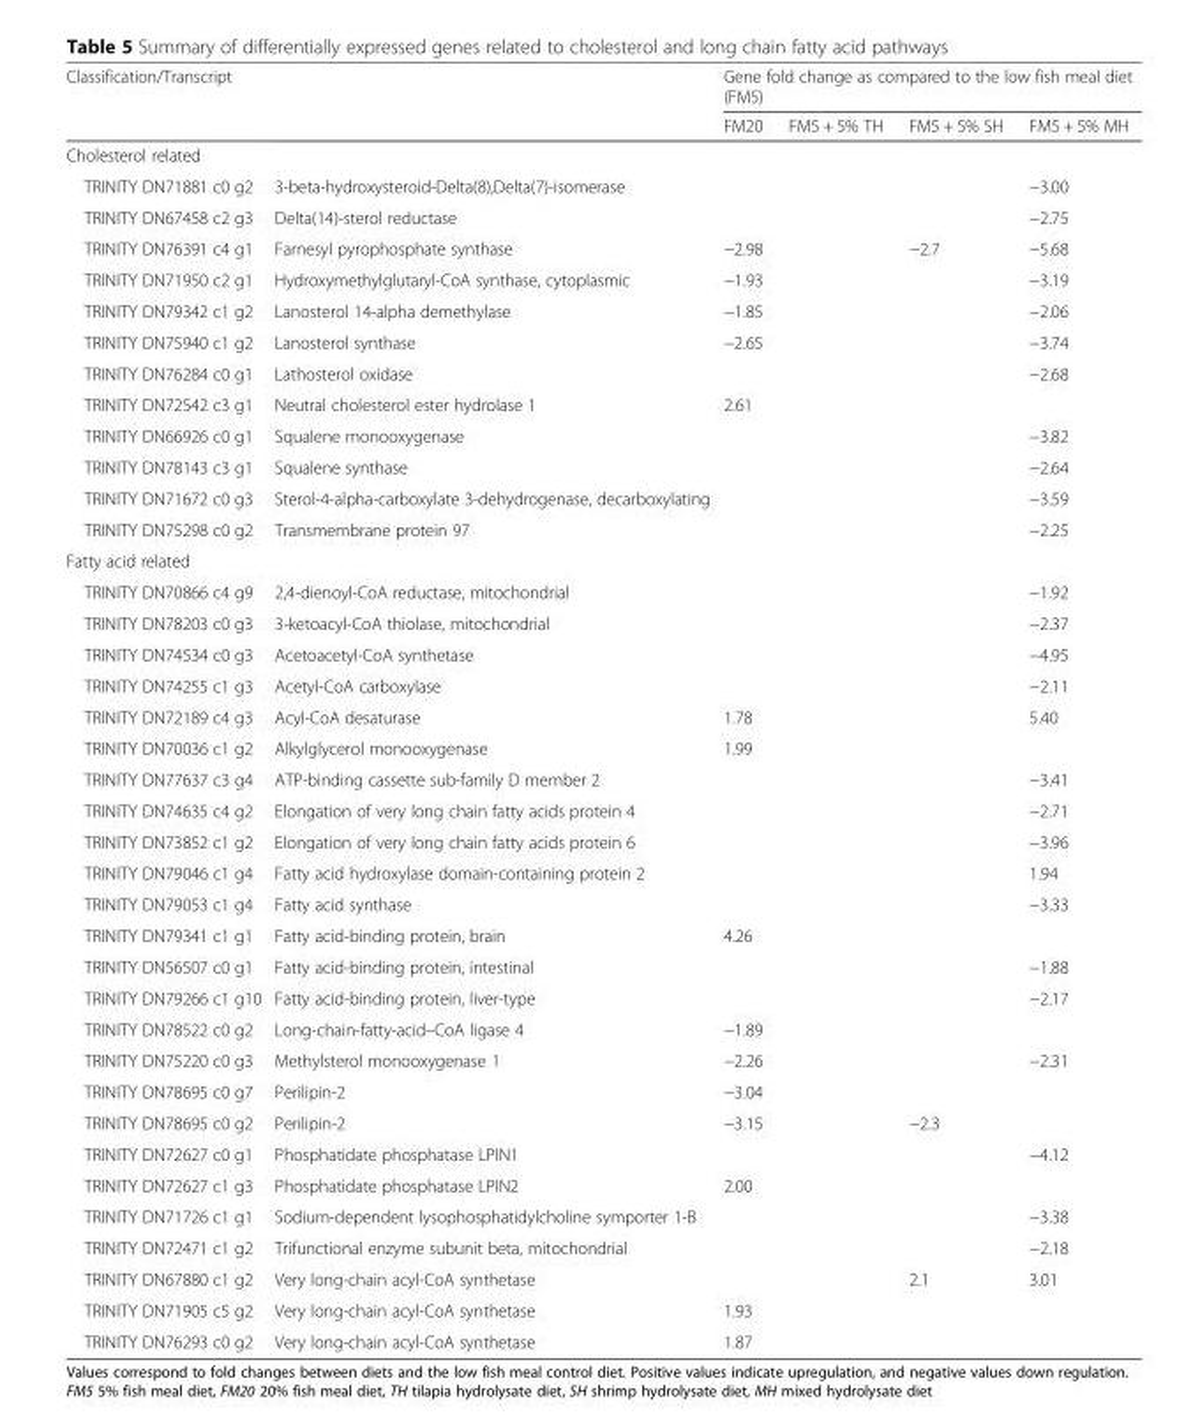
<table><thead><tr><td rowspan="2">Classification/Transcript</td><td rowspan="2"></td><td colspan="4">Gene fold change as compared to the low fish meal diet (FM5)</td></tr><tr><td>FM20</td><td>FM5 + 5% TH</td><td>FM5 + 5% SH</td><td>FM5 + 5% MH</td></tr></thead><tbody><tr><td colspan="6">Cholesterol related</td></tr><tr><td>TRINITY DN71881 c0 g2</td><td>3-beta-hydroxysteroid-Delta(8),Delta(7)-isomerase</td><td></td><td></td><td></td><td>−3.00</td></tr><tr><td>TRINITY DN67458 c2 g3</td><td>Delta(14)-sterol reductase</td><td></td><td></td><td></td><td>−2.75</td></tr><tr><td>TRINITY DN76391 c4 g1</td><td>Farnesyl pyrophosphate synthase</td><td>−2.98</td><td></td><td>−2.7</td><td>−5.68</td></tr><tr><td>TRINITY DN71950 c2 g1</td><td>Hydroxymethylglutaryl-CoA synthase, cytoplasmic</td><td>−1.93</td><td></td><td></td><td>−3.19</td></tr><tr><td>TRINITY DN79342 c1 g2</td><td>Lanosterol 14-alpha demethylase</td><td>−1.85</td><td></td><td></td><td>−2.06</td></tr><tr><td>TRINITY DN75940 c1 g2</td><td>Lanosterol synthase</td><td>−2.65</td><td></td><td></td><td>−3.74</td></tr><tr><td>TRINITY DN76284 c0 g1</td><td>Lathosterol oxidase</td><td></td><td></td><td></td><td>−2.68</td></tr><tr><td>TRINITY DN72542 c3 g1</td><td>Neutral cholesterol ester hydrolase 1</td><td>2.61</td><td></td><td></td><td></td></tr><tr><td>TRINITY DN66926 c0 g1</td><td>Squalene monooxygenase</td><td></td><td></td><td></td><td>−3.82</td></tr><tr><td>TRINITY DN78143 c3 g1</td><td>Squalene synthase</td><td></td><td></td><td></td><td>−2.64</td></tr><tr><td>TRINITY DN71672 c0 g3</td><td>Sterol-4-alpha-carboxylate 3-dehydrogenase, decarboxylating</td><td></td><td></td><td></td><td>−3.59</td></tr><tr><td>TRINITY DN75298 c0 g2</td><td>Transmembrane protein 97</td><td></td><td></td><td></td><td>−2.25</td></tr><tr><td colspan="6">Fatty acid related</td></tr><tr><td>TRINITY DN70866 c4 g9</td><td>2,4-dienoyl-CoA reductase, mitochondrial</td><td></td><td></td><td></td><td>−1.92</td></tr><tr><td>TRINITY DN78203 c0 g3</td><td>3-ketoacyl-CoA thiolase, mitochondrial</td><td></td><td></td><td></td><td>−2.37</td></tr><tr><td>TRINITY DN74534 c0 g3</td><td>Acetoacetyl-CoA synthetase</td><td></td><td></td><td></td><td>−4.95</td></tr><tr><td>TRINITY DN74255 c1 g3</td><td>Acetyl-CoA carboxylase</td><td></td><td></td><td></td><td>−2.11</td></tr><tr><td>TRINITY DN72189 c4 g3</td><td>Acyl-CoA desaturase</td><td>1.78</td><td></td><td></td><td>5.40</td></tr><tr><td>TRINITY DN70036 c1 g2</td><td>Alkylglycerol monooxygenase</td><td>1.99</td><td></td><td></td><td></td></tr><tr><td>TRINITY DN77637 c3 g4</td><td>ATP-binding cassette sub-family D member 2</td><td></td><td></td><td></td><td>−3.41</td></tr><tr><td>TRINITY DN74635 c4 g2</td><td>Elongation of very long chain fatty acids protein 4</td><td></td><td></td><td></td><td>−2.71</td></tr><tr><td>TRINITY DN73852 c1 g2</td><td>Elongation of very long chain fatty acids protein 6</td><td></td><td></td><td></td><td>−3.96</td></tr><tr><td>TRINITY DN79046 c1 g4</td><td>Fatty acid hydroxylase domain-containing protein 2</td><td></td><td></td><td></td><td>1.94</td></tr><tr><td>TRINITY DN79053 c1 g4</td><td>Fatty acid synthase</td><td></td><td></td><td></td><td>−3.33</td></tr><tr><td>TRINITY DN79341 c1 g1</td><td>Fatty acid-binding protein, brain</td><td>4.26</td><td></td><td></td><td></td></tr><tr><td>TRINITY DN56507 c0 g1</td><td>Fatty acid-binding protein, intestinal</td><td></td><td></td><td></td><td>−1.88</td></tr><tr><td>TRINITY DN79266 c1 g10</td><td>Fatty acid-binding protein, liver-type</td><td></td><td></td><td></td><td>−2.17</td></tr><tr><td>TRINITY DN78522 c0 g2</td><td>Long-chain-fatty-acid–CoA ligase 4</td><td>−1.89</td><td></td><td></td><td></td></tr><tr><td>TRINITY DN75220 c0 g3</td><td>Methylsterol monooxygenase 1</td><td>−2.26</td><td></td><td></td><td>−2.31</td></tr><tr><td>TRINITY DN78695 c0 g7</td><td>Perilipin-2</td><td>−3.04</td><td></td><td></td><td></td></tr><tr><td>TRINITY DN78695 c0 g2</td><td>Perilipin-2</td><td>−3.15</td><td></td><td>−2.3</td><td></td></tr><tr><td>TRINITY DN72627 c0 g1</td><td>Phosphatidate phosphatase LPIN1</td><td></td><td></td><td></td><td>−4.12</td></tr><tr><td>TRINITY DN72627 c1 g3</td><td>Phosphatidate phosphatase LPIN2</td><td>2.00</td><td></td><td></td><td></td></tr><tr><td>TRINITY DN71726 c1 g1</td><td>Sodium-dependent lysophosphatidylcholine symporter 1-B</td><td></td><td></td><td></td><td>−3.38</td></tr><tr><td>TRINITY DN72471 c1 g2</td><td>Trifunctional enzyme subunit beta, mitochondrial</td><td></td><td></td><td></td><td>−2.18</td></tr><tr><td>TRINITY DN67880 c1 g2</td><td>Very long-chain acyl-CoA synthetase</td><td></td><td></td><td>2.1</td><td>3.01</td></tr><tr><td>TRINITY DN71905 c5 g2</td><td>Very long-chain acyl-CoA synthetase</td><td>1.93</td><td></td><td></td><td></td></tr><tr><td>TRINITY DN76293 c0 g2</td><td>Very long-chain acyl-CoA synthetase</td><td>1.87</td><td></td><td></td><td></td></tr></tbody></table>